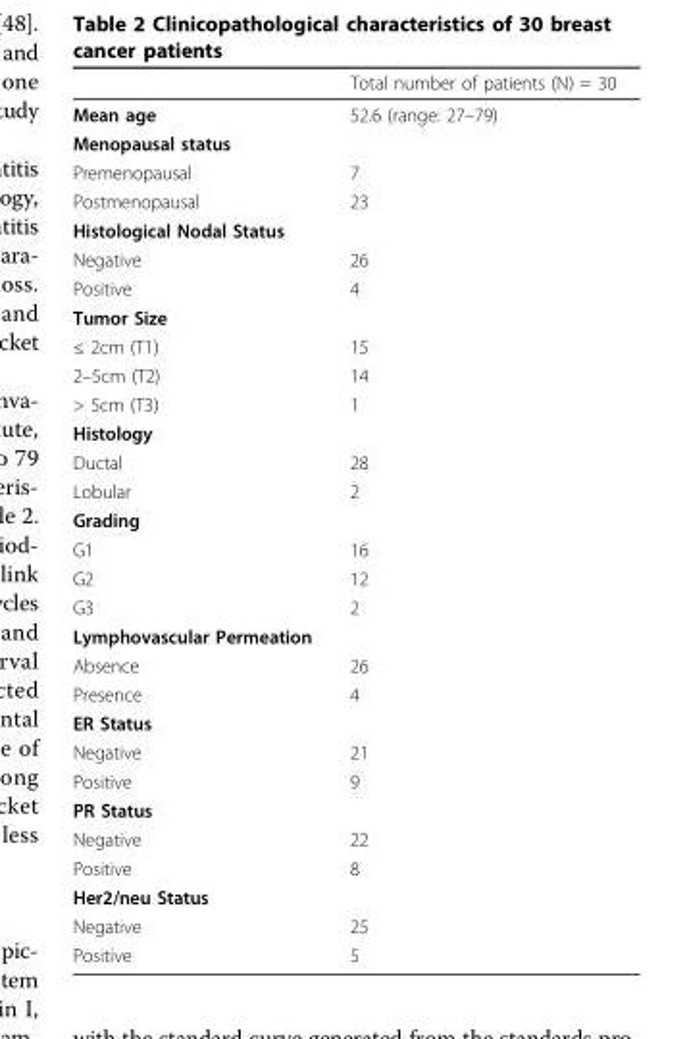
<table><thead><tr><td></td><td>Total number of patients (N) = 30</td></tr></thead><tbody><tr><td>Mean age</td><td>52.6 (range: 27–79)</td></tr><tr><td colspan="2">Menopausal status</td></tr><tr><td>Premenopausal</td><td>7</td></tr><tr><td>Postmenopausal</td><td>23</td></tr><tr><td colspan="2">Histological Nodal Status</td></tr><tr><td>Negative</td><td>26</td></tr><tr><td>Positive</td><td>4</td></tr><tr><td colspan="2">Tumor Size</td></tr><tr><td>≤ 2cm (T1)</td><td>15</td></tr><tr><td>2–5cm (T2)</td><td>14</td></tr><tr><td>&gt; 5cm (T3)</td><td>1</td></tr><tr><td colspan="2">Histology</td></tr><tr><td>Ductal</td><td>28</td></tr><tr><td>Lobular</td><td>2</td></tr><tr><td colspan="2">Grading</td></tr><tr><td>G1</td><td>16</td></tr><tr><td>G2</td><td>12</td></tr><tr><td>G3</td><td>2</td></tr><tr><td colspan="2">Lymphovascular Permeation</td></tr><tr><td>Absence</td><td>26</td></tr><tr><td>Presence</td><td>4</td></tr><tr><td colspan="2">ER Status</td></tr><tr><td>Negative</td><td>21</td></tr><tr><td>Positive</td><td>9</td></tr><tr><td colspan="2">PR Status</td></tr><tr><td>Negative</td><td>22</td></tr><tr><td>Positive</td><td>8</td></tr><tr><td colspan="2">Her2/neu Status</td></tr><tr><td>Negative</td><td>25</td></tr><tr><td>Positive</td><td>5</td></tr></tbody></table>